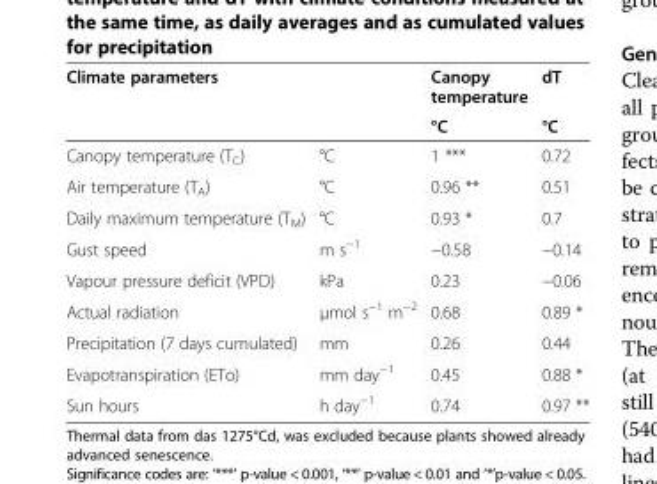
<table><thead><tr><td rowspan="2">Climate parameters</td><td rowspan="2"></td><td rowspan="2">Canopy temperature °C</td><td rowspan="2">dT °C</td></tr><tr></tr></thead><tbody><tr><td>Canopy temperature (T<sub>C</sub>)</td><td>°C</td><td>1 ***</td><td>0.72</td></tr><tr><td>Air temperature (T<sub>A</sub>)</td><td>°C</td><td>0.96 **</td><td>0.51</td></tr><tr><td>Daily maximum temperature (T<sub>M</sub>)</td><td>°C</td><td>0.93 *</td><td>0.7</td></tr><tr><td>Gust speed</td><td>m s<sup>−1</sup></td><td>−0.58</td><td>−0.14</td></tr><tr><td>Vapour pressure deficit (VPD)</td><td>kPa</td><td>0.23</td><td>−0.06</td></tr><tr><td>Actual radiation</td><td>μmol s<sup>−1</sup> m<sup>−2</sup></td><td>0.68</td><td>0.89 *</td></tr><tr><td>Precipitation (7 days cumulated)</td><td>mm</td><td>0.26</td><td>0.44</td></tr><tr><td>Evapotranspiration (ETo)</td><td>mm day<sup>−1</sup></td><td>0.45</td><td>0.88 *</td></tr><tr><td>Sun hours</td><td>h day<sup>−1</sup></td><td>0.74</td><td>0.97 **</td></tr></tbody></table>